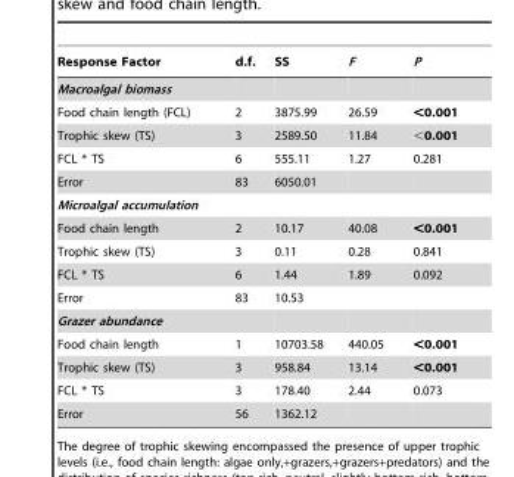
<table><thead><tr><td>Response Factor</td><td>d.f.</td><td>SS</td><td>F</td><td>P</td></tr></thead><tbody><tr><td colspan="5">Macroalgal biomass</td></tr><tr><td>Food chain length (FCL)</td><td>2</td><td>3875.99</td><td>26.59</td><td>&lt;0.001</td></tr><tr><td>Trophic skew (TS)</td><td>3</td><td>2589.50</td><td>11.84</td><td>&lt;0.001</td></tr><tr><td>FCL * TS</td><td>6</td><td>555.11</td><td>1.27</td><td>0.281</td></tr><tr><td>Error</td><td>83</td><td>6050.01</td><td></td><td></td></tr><tr><td colspan="5">Microalgal accumulation</td></tr><tr><td>Food chain length</td><td>2</td><td>10.17</td><td>40.08</td><td>&lt;0.001</td></tr><tr><td>Trophic skew (TS)</td><td>3</td><td>0.11</td><td>0.28</td><td>0.841</td></tr><tr><td>FCL * TS</td><td>6</td><td>1.44</td><td>1.89</td><td>0.092</td></tr><tr><td>Error</td><td>83</td><td>10.53</td><td></td><td></td></tr><tr><td colspan="5">Grazer abundance</td></tr><tr><td>Food chain length</td><td>1</td><td>10703.58</td><td>440.05</td><td>&lt;0.001</td></tr><tr><td>Trophic skew (TS)</td><td>3</td><td>958.84</td><td>13.14</td><td>&lt;0.001</td></tr><tr><td>FCL * TS</td><td>3</td><td>178.40</td><td>2.44</td><td>0.073</td></tr><tr><td>Error</td><td>56</td><td>1362.12</td><td></td><td></td></tr></tbody></table>